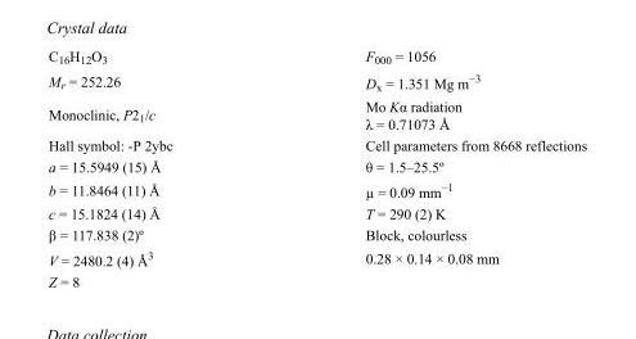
<table><tbody><tr><td>C<sub>16</sub>H<sub>12</sub>O<sub>3</sub></td><td>F000 = 1056</td></tr><tr><td>M<sub>r</sub> = 252.26</td><td>D<sub>x</sub> = 1.351 Mg m<sup>−3</sup></td></tr><tr><td>Monoclinic, P2<sub>1</sub>/c</td><td>Mo Kα radiation λ = 0.71073 Å</td></tr><tr><td>Hall symbol: -P 2ybc</td><td>Cell parameters from 8668 reflections</td></tr><tr><td>a = 15.5949 (15) Å</td><td>θ = 1.5–25.5º</td></tr><tr><td>b = 11.8464 (11) Å</td><td>µ = 0.09 mm<sup>−1</sup></td></tr><tr><td>c = 15.1824 (14) Å</td><td>T = 290 (2) K</td></tr><tr><td>β = 117.838 (2)º</td><td>Block, colourless</td></tr><tr><td>V = 2480.2 (4) Å<sup>3</sup></td><td>0.28 × 0.14 × 0.08 mm</td></tr><tr><td>Z = 8</td><td></td></tr></tbody></table>